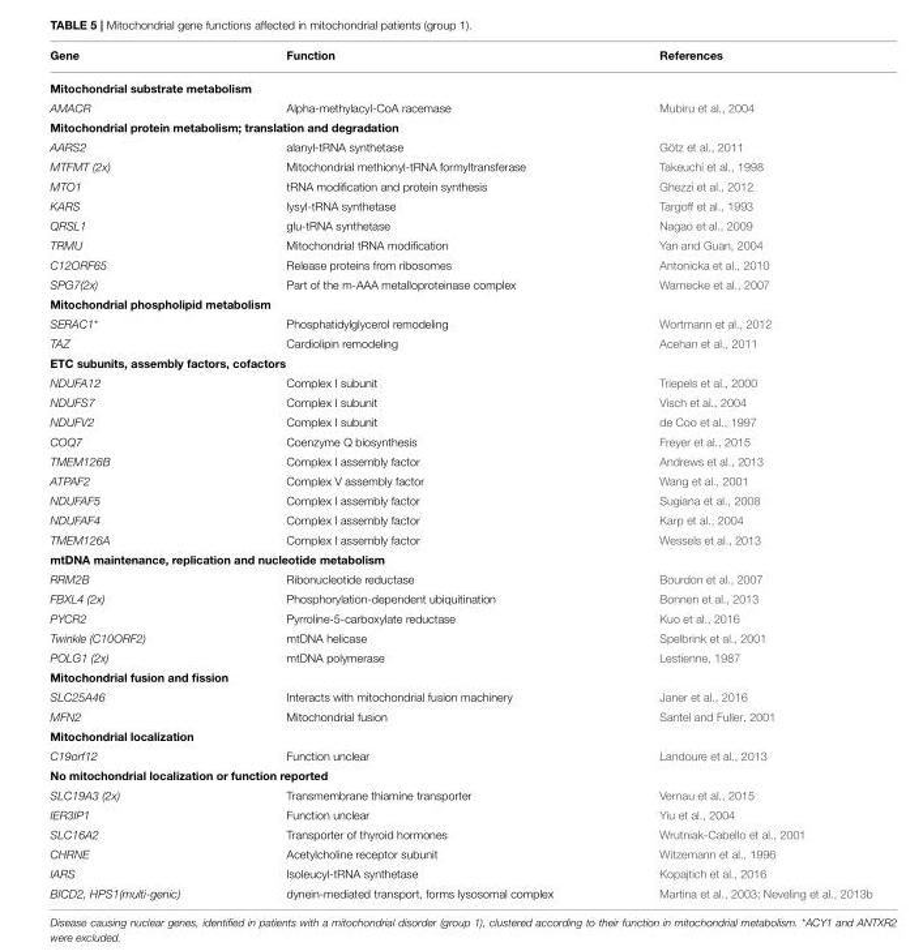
<table><thead><tr><td>Gene</td><td>Function</td><td>References</td></tr></thead><tbody><tr><td colspan="3">Mitochondrial substrate metabolism</td></tr><tr><td>AMACR</td><td>Alpha-methylacyl-CoA racemase</td><td>Mubiru et al., 2004</td></tr><tr><td colspan="3">Mitochondrial protein metabolism; translation and degradation</td></tr><tr><td>AARS2</td><td>alanyl-tRNA synthetase</td><td>Götz et al., 2011</td></tr><tr><td>MTFMT (2x)</td><td>Mitochondrial methionyl-tRNA formyltransferase</td><td>Takeuchi et al., 1998</td></tr><tr><td>MTO1</td><td>tRNA modification and protein synthesis</td><td>Ghezzi et al., 2012</td></tr><tr><td>KARS</td><td>lysyl-tRNA synthetase</td><td>Targoff et al., 1993</td></tr><tr><td>QRSL1</td><td>glu-tRNA synthetase</td><td>Nagao et al., 2009</td></tr><tr><td>TRMU</td><td>Mitochondrial tRNA modification</td><td>Yan and Guan, 2004</td></tr><tr><td>C12ORF65</td><td>Release proteins from ribosomes</td><td>Antonicka et al., 2010</td></tr><tr><td>SPG7(2x)</td><td>Part of the m-AAA metalloproteinase complex</td><td>Warnecke et al., 2007</td></tr><tr><td colspan="3">Mitochondrial phospholipid metabolism</td></tr><tr><td>SERAC1*</td><td>Phosphatidylglycerol remodeling</td><td>Wortmann et al., 2012</td></tr><tr><td>TAZ</td><td>Cardiolipin remodeling</td><td>Acehan et al., 2011</td></tr><tr><td colspan="3">ETC subunits, assembly factors, cofactors</td></tr><tr><td>NDUFA12</td><td>Complex I subunit</td><td>Triepels et al., 2000</td></tr><tr><td>NDUFS7</td><td>Complex I subunit</td><td>Visch et al., 2004</td></tr><tr><td>NDUFV2</td><td>Complex I subunit</td><td>de Coo et al., 1997</td></tr><tr><td>COQ7</td><td>Coenzyme Q biosynthesis</td><td>Freyer et al., 2015</td></tr><tr><td>TMEM126B</td><td>Complex I assembly factor</td><td>Andrews et al., 2013</td></tr><tr><td>ATPAF2</td><td>Complex V assembly factor</td><td>Wang et al., 2001</td></tr><tr><td>NDUFAF5</td><td>Complex I assembly factor</td><td>Sugiana et al., 2008</td></tr><tr><td>NDUFAF4</td><td>Complex I assembly factor</td><td>Karp et al., 2004</td></tr><tr><td>TMEM126A</td><td>Complex I assembly factor</td><td>Wessels et al., 2013</td></tr><tr><td colspan="3">mtDNA maintenance, replication and nucleotide metabolism</td></tr><tr><td>RRM2B</td><td>Ribonucleotide reductase</td><td>Bourdon et al., 2007</td></tr><tr><td>FBXL4 (2x)</td><td>Phosphorylation-dependent ubiquitination</td><td>Bonnen et al., 2013</td></tr><tr><td>PYCR2</td><td>Pyrroline-5-carboxylate reductase</td><td>Kuo et al., 2016</td></tr><tr><td>Twinkle (C10ORF2)</td><td>mtDNA helicase</td><td>Spelbrink et al., 2001</td></tr><tr><td>POLG1 (2x)</td><td>mtDNA polymerase</td><td>Lestienne, 1987</td></tr><tr><td colspan="3">Mitochondrial fusion and fission</td></tr><tr><td>SLC25A46</td><td>Interacts with mitochondrial fusion machinery</td><td>Janer et al., 2016</td></tr><tr><td>MFN2</td><td>Mitochondrial fusion</td><td>Santel and Fuller, 2001</td></tr><tr><td colspan="3">Mitochondrial localization</td></tr><tr><td>C19orf12</td><td>Function unclear</td><td>Landoure et al., 2013</td></tr><tr><td colspan="3">No mitochondrial localization or function reported</td></tr><tr><td>SLC19A3 (2x)</td><td>Transmembrane thiamine transporter</td><td>Vernau et al., 2015</td></tr><tr><td>IER3IP1</td><td>Function unclear</td><td>Yiu et al., 2004</td></tr><tr><td>SLC16A2</td><td>Transporter of thyroid hormones</td><td>Wrutniak-Cabello et al., 2001</td></tr><tr><td>CHRNE</td><td>Acetylcholine receptor subunit</td><td>Witzemann et al., 1996</td></tr><tr><td>IARS</td><td>Isoleucyl-tRNA synthetase</td><td>Kopajtich et al., 2016</td></tr><tr><td>BICD2, HPS1(multi-genic)</td><td>dynein-mediated transport, forms lysosomal complex</td><td>Martina et al., 2003; Neveling et al., 2013b</td></tr></tbody></table>